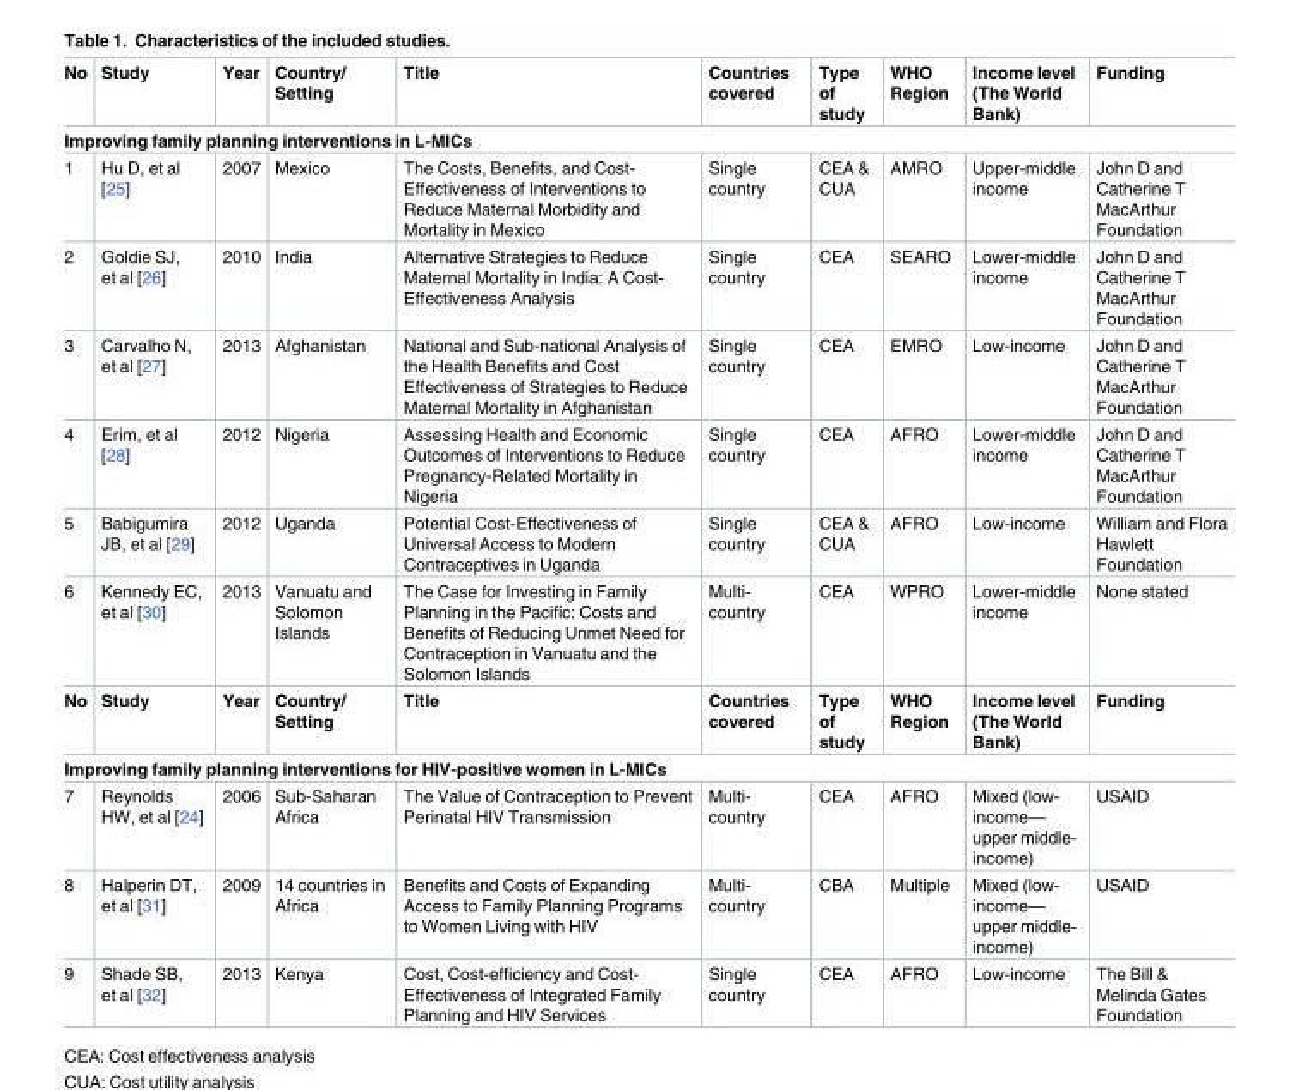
<table><tbody><tr><td>No</td><td>Study</td><td>Year</td><td>Country/ Setting</td><td>Title</td><td>Countries covered</td><td>Type of study</td><td>WHO Region</td><td>Income level (The World Bank)</td><td>Funding</td></tr><tr><td colspan="10">Improving family planning interventions in L-MICs</td></tr><tr><td>1</td><td>Hu D, et al [25]</td><td>2007</td><td>Mexico</td><td>The Costs, Benefits, and Cost- Effectiveness of Interventions to Reduce Maternal Morbidity and Mortality in Mexico</td><td>Single country</td><td>CEA &amp; CUA</td><td>AMRO</td><td>Upper-middle income</td><td>John D and Catherine T MacArthur Foundation</td></tr><tr><td>2</td><td>Goldie SJ, et al [26]</td><td>2010</td><td>India</td><td>Alternative Strategies to Reduce Maternal Mortality in India: A Cost- Effectiveness Analysis</td><td>Single country</td><td>CEA</td><td>SEARO</td><td>Lower-middle income</td><td>John D and Catherine T MacArthur Foundation</td></tr><tr><td>3</td><td>Carvalho N, et al [27]</td><td>2013</td><td>Afghanistan</td><td>National and Sub-national Analysis of the Health Benefits and Cost Effectiveness of Strategies to Reduce Maternal Mortality in Afghanistan</td><td>Single country</td><td>CEA</td><td>EMRO</td><td>Low-income</td><td>John D and Catherine T MacArthur Foundation</td></tr><tr><td>4</td><td>Erim, et al [28]</td><td>2012</td><td>Nigeria</td><td>Assessing Health and Economic Outcomes of Interventions to Reduce Pregnancy-Related Mortality in Nigeria</td><td>Single country</td><td>CEA</td><td>AFRO</td><td>Lower-middle income</td><td>John D and Catherine T MacArthur Foundation</td></tr><tr><td>5</td><td>Babigumira JB, et al [29]</td><td>2012</td><td>Uganda</td><td>Potential Cost-Effectiveness of Universal Access to Modern Contraceptives in Uganda</td><td>Single country</td><td>CEA &amp; CUA</td><td>AFRO</td><td>Low-income</td><td>William and Flora Hawlett Foundation</td></tr><tr><td>6</td><td>Kennedy EC, et al [30]</td><td>2013</td><td>Vanuatu and Solomon Islands</td><td>The Case for Investing in Family Planning in the Pacific: Costs and Benefits of Reducing Unmet Need for Contraception in Vanuatu and the Solomon Islands</td><td>Multi- country</td><td>CEA</td><td>WPRO</td><td>Lower-middle income</td><td>None stated</td></tr><tr><td>No</td><td>Study</td><td>Year</td><td>Country/ Setting</td><td>Title</td><td>Countries covered</td><td>Type of study</td><td>WHO Region</td><td>Income level (The World Bank)</td><td>Funding</td></tr><tr><td colspan="10">Improving family planning interventions for HIV-positive women in L-MICs</td></tr><tr><td>7</td><td>Reynolds HW, et al [24]</td><td>2006</td><td>Sub-Saharan Africa</td><td>The Value of Contraception to Prevent Perinatal HIV Transmission</td><td>Multi- country</td><td>CEA</td><td>AFRO</td><td>Mixed (low- income— upper middle- income)</td><td>USAID</td></tr><tr><td>8</td><td>Halperin DT, et al [31]</td><td>2009</td><td>14 countries in Africa</td><td>Benefits and Costs of Expanding Access to Family Planning Programs to Women Living with HIV</td><td>Multi- country</td><td>CBA</td><td>Multiple</td><td>Mixed (low- income— upper middle- income)</td><td>USAID</td></tr><tr><td>9</td><td>Shade SB, et al [32]</td><td>2013</td><td>Kenya</td><td>Cost, Cost-efficiency and Cost- Effectiveness of Integrated Family Planning and HIV Services</td><td>Single country</td><td>CEA</td><td>AFRO</td><td>Low-income</td><td>The Bill &amp; Melinda Gates Foundation</td></tr></tbody></table>